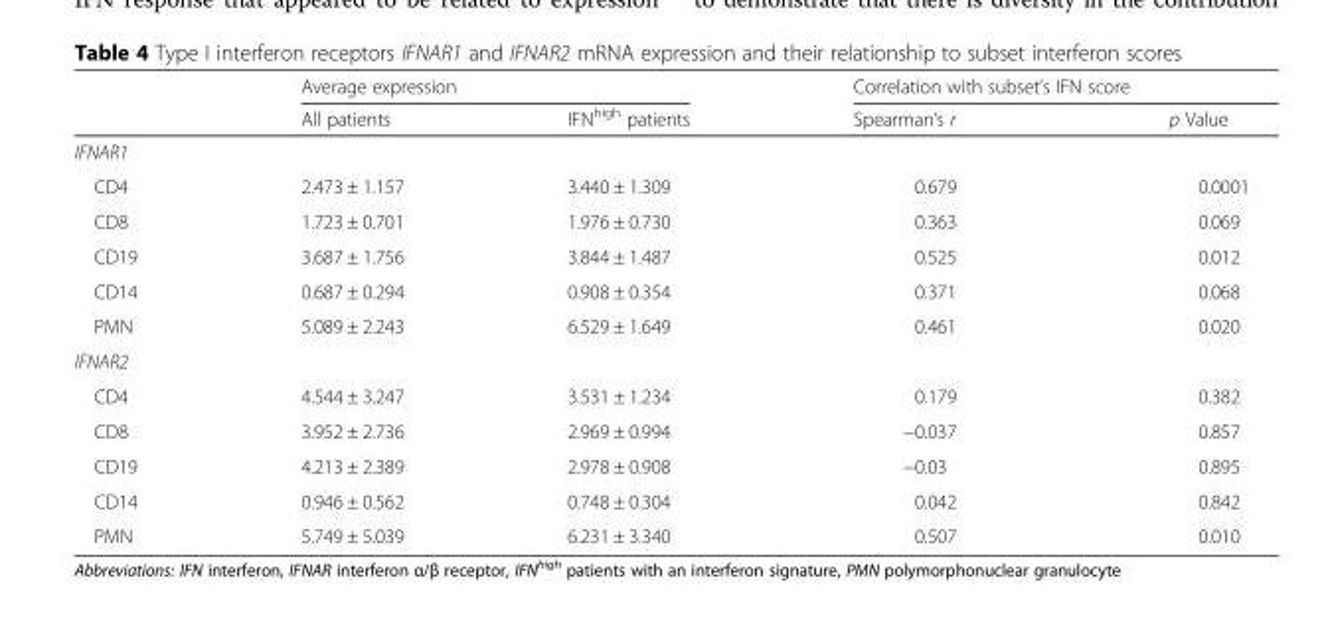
<table><thead><tr><td rowspan="2"></td><td colspan="2">Average expression</td><td colspan="2">Correlation with subset’s IFN score</td></tr><tr><td>All patients</td><td>IFN<sup>high</sup> patients</td><td>Spearman’s r</td><td>p Value</td></tr></thead><tbody><tr><td colspan="5">IFNAR1</td></tr><tr><td>CD4</td><td>2.473 ± 1.157</td><td>3.440 ± 1.309</td><td>0.679</td><td>0.0001</td></tr><tr><td>CD8</td><td>1.723 ± 0.701</td><td>1.976 ± 0.730</td><td>0.363</td><td>0.069</td></tr><tr><td>CD19</td><td>3.687 ± 1.756</td><td>3.844 ± 1.487</td><td>0.525</td><td>0.012</td></tr><tr><td>CD14</td><td>0.687 ± 0.294</td><td>0.908 ± 0.354</td><td>0.371</td><td>0.068</td></tr><tr><td>PMN</td><td>5.089 ± 2.243</td><td>6.529 ± 1.649</td><td>0.461</td><td>0.020</td></tr><tr><td colspan="5">IFNAR2</td></tr><tr><td>CD4</td><td>4.544 ± 3.247</td><td>3.531 ± 1.234</td><td>0.179</td><td>0.382</td></tr><tr><td>CD8</td><td>3.952 ± 2.736</td><td>2.969 ± 0.994</td><td>−0.037</td><td>0.857</td></tr><tr><td>CD19</td><td>4.213 ± 2.389</td><td>2.978 ± 0.908</td><td>−0.03</td><td>0.895</td></tr><tr><td>CD14</td><td>0.946 ± 0.562</td><td>0.748 ± 0.304</td><td>0.042</td><td>0.842</td></tr><tr><td>PMN</td><td>5.749 ± 5.039</td><td>6.231 ± 3.340</td><td>0.507</td><td>0.010</td></tr></tbody></table>